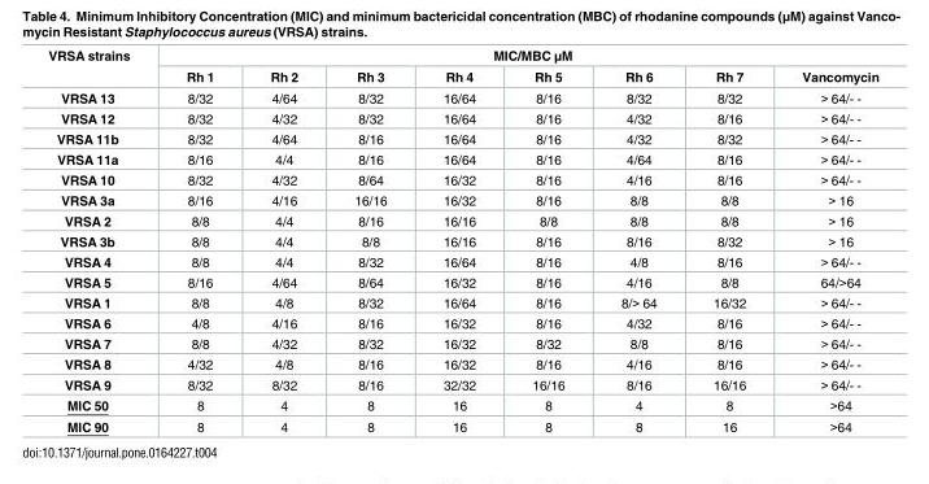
<table><thead><tr><td rowspan="2">VRSA strains</td><td colspan="8">MIC/MBC μM</td></tr><tr><td>Rh 1</td><td>Rh 2</td><td>Rh 3</td><td>Rh 4</td><td>Rh 5</td><td>Rh 6</td><td>Rh 7</td><td>Vancomycin</td></tr></thead><tbody><tr><td>VRSA 13</td><td>8/32</td><td>4/64</td><td>8/32</td><td>16/64</td><td>8/16</td><td>8/32</td><td>8/32</td><td>&gt; 64/- -</td></tr><tr><td>VRSA 12</td><td>8/32</td><td>4/32</td><td>8/32</td><td>16/64</td><td>8/16</td><td>4/32</td><td>8/16</td><td>&gt; 64/- -</td></tr><tr><td>VRSA 11b</td><td>8/32</td><td>4/64</td><td>8/16</td><td>16/64</td><td>8/16</td><td>4/32</td><td>8/32</td><td>&gt; 64/- -</td></tr><tr><td>VRSA 11a</td><td>8/16</td><td>4/4</td><td>8/16</td><td>16/64</td><td>8/16</td><td>4/64</td><td>8/16</td><td>&gt; 64/- -</td></tr><tr><td>VRSA 10</td><td>8/32</td><td>4/32</td><td>8/64</td><td>16/32</td><td>8/16</td><td>4/16</td><td>8/16</td><td>&gt; 64/- -</td></tr><tr><td>VRSA 3a</td><td>8/16</td><td>4/16</td><td>16/16</td><td>16/32</td><td>8/16</td><td>8/8</td><td>8/8</td><td>&gt; 16</td></tr><tr><td>VRSA 2</td><td>8/8</td><td>4/4</td><td>8/16</td><td>16/16</td><td>8/8</td><td>8/8</td><td>8/8</td><td>&gt; 16</td></tr><tr><td>VRSA 3b</td><td>8/8</td><td>4/4</td><td>8/8</td><td>16/16</td><td>8/16</td><td>8/16</td><td>8/32</td><td>&gt; 16</td></tr><tr><td>VRSA 4</td><td>8/8</td><td>4/4</td><td>8/32</td><td>16/64</td><td>8/16</td><td>4/8</td><td>8/16</td><td>&gt; 64/- -</td></tr><tr><td>VRSA 5</td><td>8/16</td><td>4/64</td><td>8/64</td><td>16/32</td><td>8/16</td><td>4/16</td><td>8/8</td><td>64/&gt;64</td></tr><tr><td>VRSA 1</td><td>8/8</td><td>4/8</td><td>8/32</td><td>16/64</td><td>8/16</td><td>8/&gt; 64</td><td>16/32</td><td>&gt; 64/- -</td></tr><tr><td>VRSA 6</td><td>4/8</td><td>4/16</td><td>8/16</td><td>16/32</td><td>8/16</td><td>4/32</td><td>8/16</td><td>&gt; 64/- -</td></tr><tr><td>VRSA 7</td><td>8/8</td><td>4/32</td><td>8/32</td><td>16/32</td><td>8/32</td><td>8/8</td><td>8/16</td><td>&gt; 64/- -</td></tr><tr><td>VRSA 8</td><td>4/32</td><td>4/8</td><td>8/16</td><td>16/32</td><td>8/16</td><td>4/16</td><td>8/16</td><td>&gt; 64/- -</td></tr><tr><td>VRSA 9</td><td>8/32</td><td>8/32</td><td>8/16</td><td>32/32</td><td>16/16</td><td>8/16</td><td>16/16</td><td>&gt; 64/- -</td></tr><tr><td>MIC 50</td><td>8</td><td>4</td><td>8</td><td>16</td><td>8</td><td>4</td><td>8</td><td>&gt;64</td></tr><tr><td>MIC 90</td><td>8</td><td>4</td><td>8</td><td>16</td><td>8</td><td>8</td><td>16</td><td>&gt;64</td></tr></tbody></table>